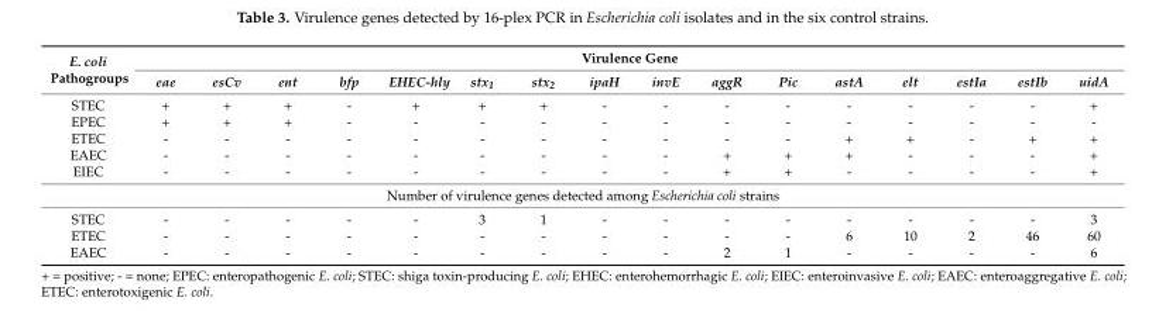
<table><thead><tr><td rowspan="2">E. coli Pathogroups</td><td colspan="16">Virulence Gene</td></tr><tr><td>eae</td><td>esCv</td><td>ent</td><td>bfp</td><td>EHEC-hly</td><td>stx<sub>1</sub></td><td>stx<sub>2</sub></td><td>ipaH</td><td>invE</td><td>aggR</td><td>Pic</td><td>astA</td><td>elt</td><td>estIa</td><td>estIb</td><td>uidA</td></tr></thead><tbody><tr><td>STEC</td><td>+</td><td>+</td><td>+</td><td>-</td><td>+</td><td>+</td><td>+</td><td>-</td><td>-</td><td>-</td><td>-</td><td>-</td><td>-</td><td>-</td><td>-</td><td>+</td></tr><tr><td>EPEC</td><td>+</td><td>+</td><td>+</td><td>-</td><td>-</td><td>-</td><td>-</td><td>-</td><td>-</td><td>-</td><td>-</td><td>-</td><td>-</td><td>-</td><td>-</td><td>-</td></tr><tr><td>ETEC</td><td>-</td><td>-</td><td>-</td><td>-</td><td>-</td><td>-</td><td>-</td><td>-</td><td>-</td><td>-</td><td>-</td><td>+</td><td>+</td><td>-</td><td>+</td><td>+</td></tr><tr><td>EAEC</td><td>-</td><td>-</td><td>-</td><td>-</td><td>-</td><td>-</td><td>-</td><td>-</td><td>-</td><td>+</td><td>+</td><td>+</td><td>-</td><td>-</td><td>-</td><td>+</td></tr><tr><td>EIEC</td><td>-</td><td>-</td><td>-</td><td>-</td><td>-</td><td>-</td><td>-</td><td>-</td><td>-</td><td>+</td><td>+</td><td>-</td><td>-</td><td>-</td><td>-</td><td>+</td></tr><tr><td colspan="17">Number of virulence genes detected among Escherichia coli strains</td></tr><tr><td>STEC</td><td>-</td><td>-</td><td>-</td><td>-</td><td>-</td><td>3</td><td>1</td><td>-</td><td>-</td><td>-</td><td>-</td><td>-</td><td>-</td><td>-</td><td>-</td><td>3</td></tr><tr><td>ETEC</td><td>-</td><td>-</td><td>-</td><td>-</td><td>-</td><td>-</td><td>-</td><td>-</td><td>-</td><td>-</td><td>-</td><td>6</td><td>10</td><td>2</td><td>46</td><td>60</td></tr><tr><td>EAEC</td><td>-</td><td>-</td><td>-</td><td>-</td><td>-</td><td>-</td><td>-</td><td>-</td><td>-</td><td>2</td><td>1</td><td>-</td><td>-</td><td>-</td><td>-</td><td>6</td></tr></tbody></table>